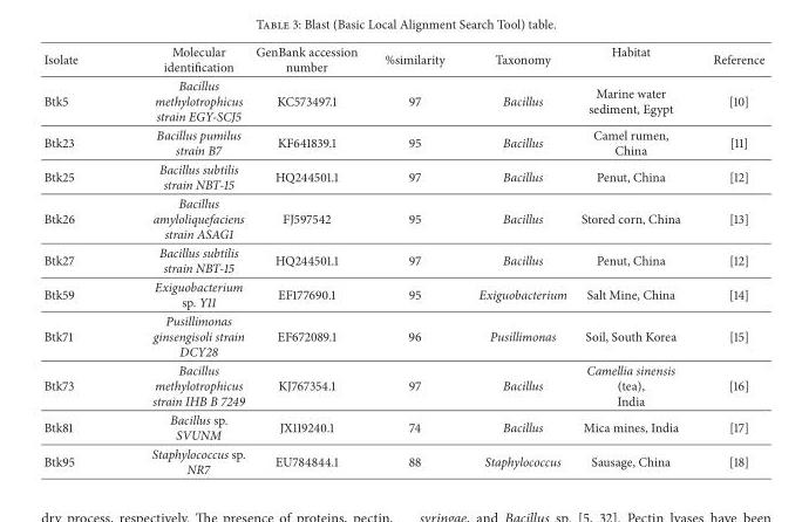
<table><thead><tr><td>Isolate</td><td>Molecular identification</td><td>GenBank accession number</td><td>%similarity</td><td>Taxonomy</td><td>Habitat</td><td>Reference</td></tr></thead><tbody><tr><td>Btk5</td><td>Bacillus methylotrophicus strain EGY-SCJ5</td><td>KC573497.1</td><td>97</td><td>Bacillus</td><td>Marine water sediment, Egypt</td><td>[10]</td></tr><tr><td>Btk23</td><td>Bacillus pumilus strain B7</td><td>KF641839.1</td><td>95</td><td>Bacillus</td><td>Camel rumen, China</td><td>[11]</td></tr><tr><td>Btk25</td><td>Bacillus subtilis strain NBT-15</td><td>HQ244501.1</td><td>97</td><td>Bacillus</td><td>Penut, China</td><td>[12]</td></tr><tr><td>Btk26</td><td>Bacillus amyloliquefaciens strain ASAG1</td><td>FJ597542</td><td>95</td><td>Bacillus</td><td>Stored corn, China</td><td>[13]</td></tr><tr><td>Btk27</td><td>Bacillus subtilis strain NBT-15</td><td>HQ244501.1</td><td>97</td><td>Bacillus</td><td>Penut, China</td><td>[12]</td></tr><tr><td>Btk59</td><td>Exiguobacterium sp. Y11</td><td>EF177690.1</td><td>95</td><td>Exiguobacterium</td><td>Salt Mine, China</td><td>[14]</td></tr><tr><td>Btk71</td><td>Pusillimonas ginsengisoli strain DCY28</td><td>EF672089.1</td><td>96</td><td>Pusillimonas</td><td>Soil, South Korea</td><td>[15]</td></tr><tr><td>Btk73</td><td>Bacillus methylotrophicus strain IHB B 7249</td><td>KJ767354.1</td><td>97</td><td>Bacillus</td><td>Camellia sinensis (tea), India</td><td>[16]</td></tr><tr><td>Btk81</td><td>Bacillus sp. SVUNM</td><td>JX119240.1</td><td>74</td><td>Bacillus</td><td>Mica mines, India</td><td>[17]</td></tr><tr><td>Btk95</td><td>Staphylococcus sp. NR7</td><td>EU784844.1</td><td>88</td><td>Staphylococcus</td><td>Sausage, China</td><td>[18]</td></tr></tbody></table>